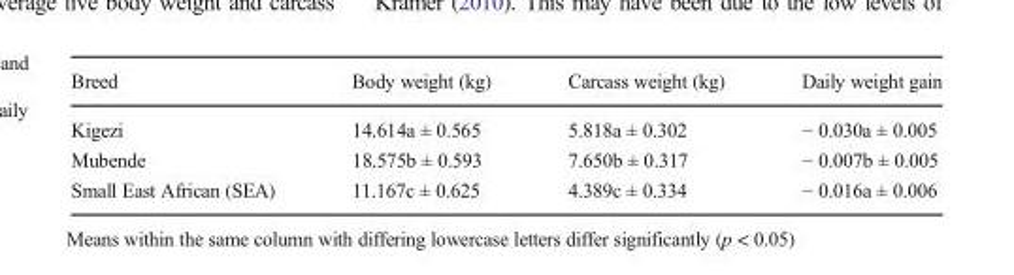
<table><thead><tr><td>Breed</td><td>Body weight (kg)</td><td>Carcass weight (kg)</td><td>Daily weight gain</td></tr></thead><tbody><tr><td>Kigezi</td><td>14.614a ± 0.565</td><td>5.818a ± 0.302</td><td>− 0.030a ± 0.005</td></tr><tr><td>Mubende</td><td>18.575b ± 0.593</td><td>7.650b ± 0.317</td><td>− 0.007b ± 0.005</td></tr><tr><td>Small East African (SEA)</td><td>11.167c ± 0.625</td><td>4.389c ± 0.334</td><td>− 0.016a ± 0.006</td></tr></tbody></table>